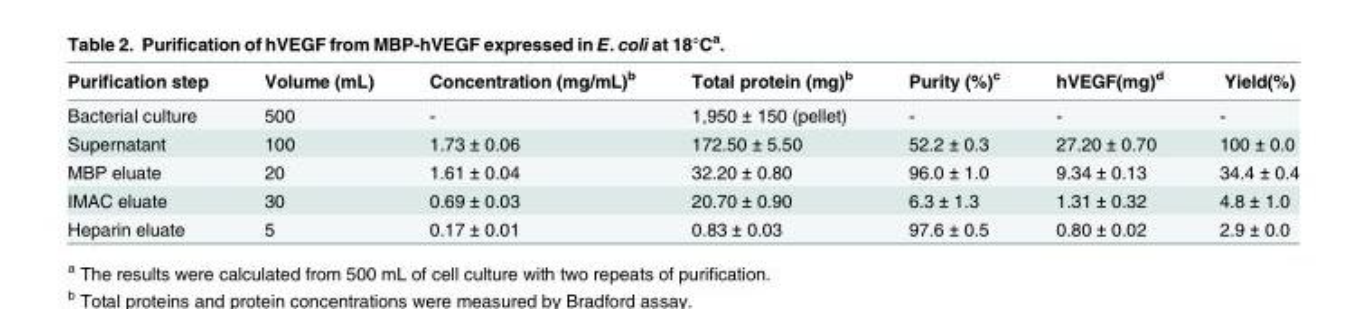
<table><thead><tr><td>Purification step</td><td>Volume (mL)</td><td>Concentration (mg/mL)<sup>b</sup></td><td>Total protein (mg)<sup>b</sup></td><td>Purity (%)<sup>c</sup></td><td>hVEGF(mg)<sup>d</sup></td><td>Yield(%)</td></tr></thead><tbody><tr><td>Bacterial culture</td><td>500</td><td>-</td><td>1,950 ± 150 (pellet)</td><td>-</td><td>-</td><td>-</td></tr><tr><td>Supernatant</td><td>100</td><td>1.73 ± 0.06</td><td>172.50 ± 5.50</td><td>52.2 ± 0.3</td><td>27.20 ± 0.70</td><td>100 ± 0.0</td></tr><tr><td>MBP eluate</td><td>20</td><td>1.61 ± 0.04</td><td>32.20 ± 0.80</td><td>96.0 ± 1.0</td><td>9.34 ± 0.13</td><td>34.4 ± 0.4</td></tr><tr><td>IMAC eluate</td><td>30</td><td>0.69 ± 0.03</td><td>20.70 ± 0.90</td><td>6.3 ± 1.3</td><td>1.31 ± 0.32</td><td>4.8 ± 1.0</td></tr><tr><td>Heparin eluate</td><td>5</td><td>0.17 ± 0.01</td><td>0.83 ± 0.03</td><td>97.6 ± 0.5</td><td>0.80 ± 0.02</td><td>2.9 ± 0.0</td></tr></tbody></table>